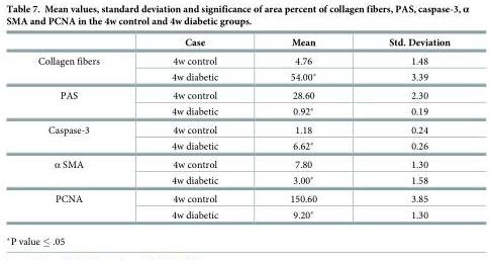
<table><thead><tr><td></td><td>Case</td><td>Mean</td><td>Std. Deviation</td></tr></thead><tbody><tr><td rowspan="2">Collagen fibers</td><td>4w control</td><td>4.76</td><td>1.48</td></tr><tr><td>4w diabetic</td><td>54.00*</td><td>3.39</td></tr><tr><td rowspan="2">PAS</td><td>4w control</td><td>28.60</td><td>2.30</td></tr><tr><td>4w diabetic</td><td>0.92*</td><td>0.19</td></tr><tr><td rowspan="2">Caspase-3</td><td>4w control</td><td>1.18</td><td>0.24</td></tr><tr><td>4w diabetic</td><td>6.62*</td><td>0.26</td></tr><tr><td rowspan="2">α SMA</td><td>4w control</td><td>7.80</td><td>1.30</td></tr><tr><td>4w diabetic</td><td>3.00*</td><td>1.58</td></tr><tr><td rowspan="2">PCNA</td><td>4w control</td><td>150.60</td><td>3.85</td></tr><tr><td>4w diabetic</td><td>9.20*</td><td>1.30</td></tr></tbody></table>